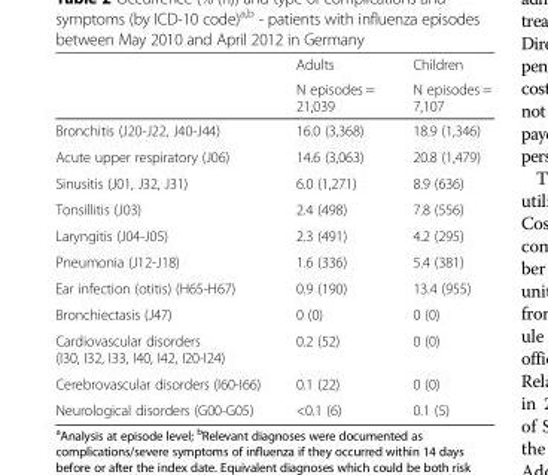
<table><thead><tr><td rowspan="2"></td><td rowspan="2">Adults N episodes = 21,039</td><td rowspan="2">Children N episodes = 7,107</td></tr><tr></tr></thead><tbody><tr><td>Bronchitis (J20-J22, J40-J44)</td><td>16.0 (3,368)</td><td>18.9 (1,346)</td></tr><tr><td>Acute upper respiratory (J06)</td><td>14.6 (3,063)</td><td>20.8 (1,479)</td></tr><tr><td>Sinusitis (J01, J32, J31)</td><td>6.0 (1,271)</td><td>8.9 (636)</td></tr><tr><td>Tonsillitis (J03)</td><td>2.4 (498)</td><td>7.8 (556)</td></tr><tr><td>Laryngitis (J04-J05)</td><td>2.3 (491)</td><td>4.2 (295)</td></tr><tr><td>Pneumonia (J12-J18)</td><td>1.6 (336)</td><td>5.4 (381)</td></tr><tr><td>Ear infection (otitis) (H65-H67)</td><td>0.9 (190)</td><td>13.4 (955)</td></tr><tr><td>Bronchiectasis (J47)</td><td>0 (0)</td><td>0 (0)</td></tr><tr><td>Cardiovascular disorders (I30, I32, I33, I40, I42, I20-I24)</td><td>0.2 (52)</td><td>0 (0)</td></tr><tr><td>Cerebrovascular disorders (I60-I66)</td><td>0.1 (22)</td><td>0 (0)</td></tr><tr><td>Neurological disorders (G00-G05)</td><td>&lt;0.1 (6)</td><td>0.1 (5)</td></tr></tbody></table>